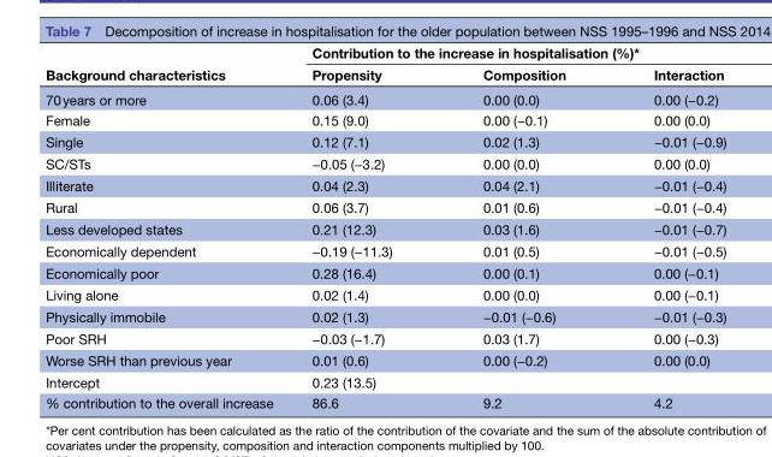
<table><thead><tr><td rowspan="2">Background characteristics</td><td colspan="3">Contribution to the increase in hospitalisation (%)*</td></tr><tr><td>Propensity</td><td>Composition</td><td>Interaction</td></tr></thead><tbody><tr><td>70 years or more</td><td>0.06 (3.4)</td><td>0.00 (0.0)</td><td>0.00 (−0.2)</td></tr><tr><td>Female</td><td>0.15 (9.0)</td><td>0.00 (−0.1)</td><td>0.00 (0.0)</td></tr><tr><td>Single</td><td>0.12 (7.1)</td><td>0.02 (1.3)</td><td>−0.01 (−0.9)</td></tr><tr><td>SC/STs</td><td>−0.05 (−3.2)</td><td>0.00 (0.0)</td><td>0.00 (0.0)</td></tr><tr><td>Illiterate</td><td>0.04 (2.3)</td><td>0.04 (2.1)</td><td>−0.01 (−0.4)</td></tr><tr><td>Rural</td><td>0.06 (3.7)</td><td>0.01 (0.6)</td><td>−0.01 (−0.4)</td></tr><tr><td>Less developed states</td><td>0.21 (12.3)</td><td>0.03 (1.6)</td><td>−0.01 (−0.7)</td></tr><tr><td>Economically dependent</td><td>−0.19 (−11.3)</td><td>0.01 (0.5)</td><td>−0.01 (−0.5)</td></tr><tr><td>Economically poor</td><td>0.28 (16.4)</td><td>0.00 (0.1)</td><td>0.00 (−0.1)</td></tr><tr><td>Living alone</td><td>0.02 (1.4)</td><td>0.00 (0.0)</td><td>0.00 (−0.1)</td></tr><tr><td>Physically immobile</td><td>0.02 (1.3)</td><td>−0.01 (−0.6)</td><td>−0.01 (−0.3)</td></tr><tr><td>Poor SRH</td><td>−0.03 (−1.7)</td><td>0.03 (1.7)</td><td>0.00 (−0.3)</td></tr><tr><td>Worse SRH than previous year</td><td>0.01 (0.6)</td><td>0.00 (−0.2)</td><td>0.00 (0.0)</td></tr><tr><td>Intercept</td><td>0.23 (13.5)</td><td></td><td></td></tr><tr><td>% contribution to the overall increase</td><td>86.6</td><td>9.2</td><td>4.2</td></tr></tbody></table>